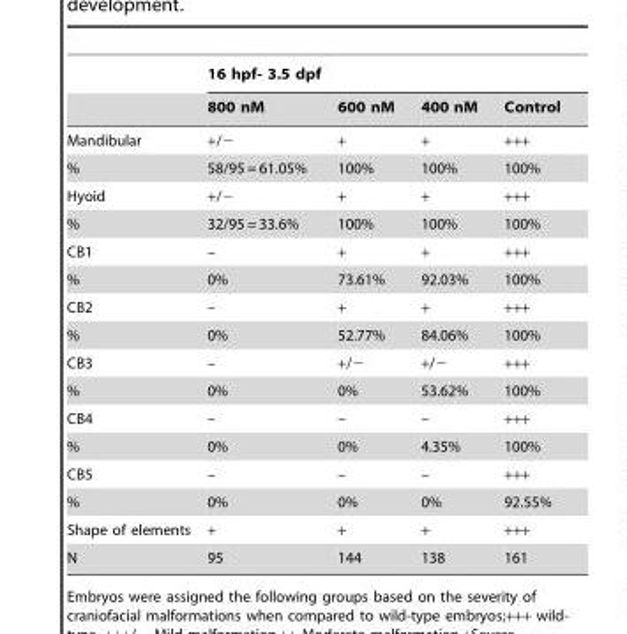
<table><thead><tr><td rowspan="2"></td><td colspan="4">16 hpf- 3.5 dpf</td></tr><tr><td>800 nM</td><td>600 nM</td><td>400 nM</td><td>Control</td></tr></thead><tbody><tr><td>Mandibular</td><td>+/−</td><td>+</td><td>+</td><td>+++</td></tr><tr><td>%</td><td>58/95 = 61.05%</td><td>100%</td><td>100%</td><td>100%</td></tr><tr><td>Hyoid</td><td>+/−</td><td>+</td><td>+</td><td>+++</td></tr><tr><td>%</td><td>32/95 = 33.6%</td><td>100%</td><td>100%</td><td>100%</td></tr><tr><td>CB1</td><td>–</td><td>+</td><td>+</td><td>+++</td></tr><tr><td>%</td><td>0%</td><td>73.61%</td><td>92.03%</td><td>100%</td></tr><tr><td>CB2</td><td>–</td><td>+</td><td>+</td><td>+++</td></tr><tr><td>%</td><td>0%</td><td>52.77%</td><td>84.06%</td><td>100%</td></tr><tr><td>CB3</td><td>–</td><td>+/−</td><td>+/−</td><td>+++</td></tr><tr><td>%</td><td>0%</td><td>0%</td><td>53.62%</td><td>100%</td></tr><tr><td>CB4</td><td>–</td><td>–</td><td>–</td><td>+++</td></tr><tr><td>%</td><td>0%</td><td>0%</td><td>4.35%</td><td>100%</td></tr><tr><td>CB5</td><td>–</td><td>–</td><td>–</td><td>+++</td></tr><tr><td>%</td><td>0%</td><td>0%</td><td>0%</td><td>92.55%</td></tr><tr><td>Shape of elements</td><td>+</td><td>+</td><td>+</td><td>+++</td></tr><tr><td>N</td><td>95</td><td>144</td><td>138</td><td>161</td></tr></tbody></table>